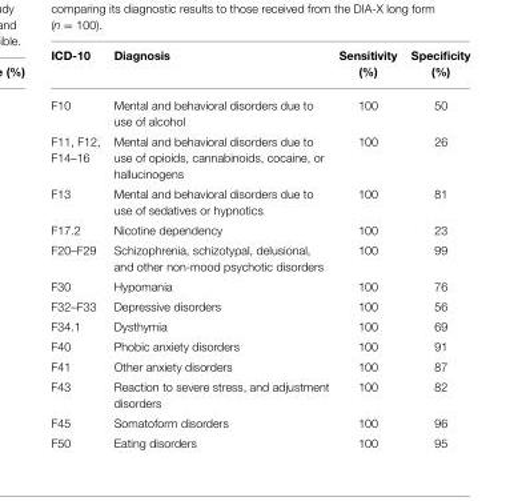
<table><thead><tr><td>ICD-10</td><td>Diagnosis</td><td>Sensitivity (%)</td><td>Specificity (%)</td></tr></thead><tbody><tr><td>F10</td><td>Mental and behavioral disorders due to use of alcohol</td><td>100</td><td>50</td></tr><tr><td>F11, F12, F14–16</td><td>Mental and behavioral disorders due to use of opioids, cannabinoids, cocaine, or hallucinogens</td><td>100</td><td>26</td></tr><tr><td>F13</td><td>Mental and behavioral disorders due to use of sedatives or hypnotics</td><td>100</td><td>81</td></tr><tr><td>F17.2</td><td>Nicotine dependency</td><td>100</td><td>23</td></tr><tr><td>F20–F29</td><td>Schizophrenia, schizotypal, delusional, and other non-mood psychotic disorders</td><td>100</td><td>99</td></tr><tr><td>F30</td><td>Hypomania</td><td>100</td><td>76</td></tr><tr><td>F32–F33</td><td>Depressive disorders</td><td>100</td><td>56</td></tr><tr><td>F34.1</td><td>Dysthymia</td><td>100</td><td>69</td></tr><tr><td>F40</td><td>Phobic anxiety disorders</td><td>100</td><td>91</td></tr><tr><td>F41</td><td>Other anxiety disorders</td><td>100</td><td>87</td></tr><tr><td>F43</td><td>Reaction to severe stress, and adjustment disorders</td><td>100</td><td>82</td></tr><tr><td>F45</td><td>Somatoform disorders</td><td>100</td><td>96</td></tr><tr><td>F50</td><td>Eating disorders</td><td>100</td><td>95</td></tr></tbody></table>